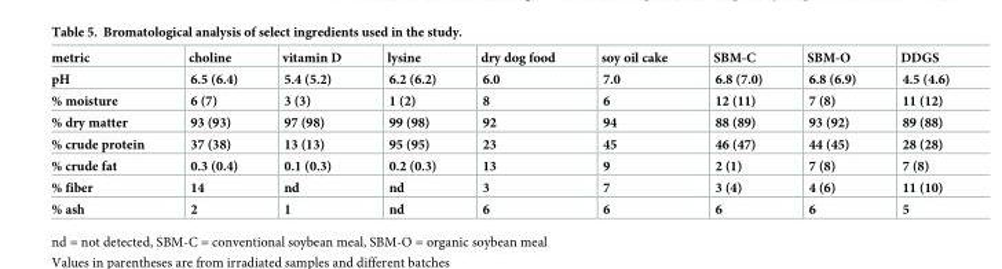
<table><thead><tr><td>metric</td><td>choline</td><td>vitamin D</td><td>lysine</td><td>dry dog food</td><td>soy oil cake</td><td>SBM-C</td><td>SBM-O</td><td>DDGS</td></tr></thead><tbody><tr><td>pH</td><td>6.5 (6.4)</td><td>5.4 (5.2)</td><td>6.2 (6.2)</td><td>6.0</td><td>7.0</td><td>6.8 (7.0)</td><td>6.8 (6.9)</td><td>4.5 (4.6)</td></tr><tr><td>% moisture</td><td>6 (7)</td><td>3 (3)</td><td>1 (2)</td><td>8</td><td>6</td><td>12 (11)</td><td>7 (8)</td><td>11 (12)</td></tr><tr><td>% dry matter</td><td>93 (93)</td><td>97 (98)</td><td>99 (98)</td><td>92</td><td>94</td><td>88 (89)</td><td>93 (92)</td><td>89 (88)</td></tr><tr><td>% crude protein</td><td>37 (38)</td><td>13 (13)</td><td>95 (95)</td><td>23</td><td>45</td><td>46 (47)</td><td>44 (45)</td><td>28 (28)</td></tr><tr><td>% crude fat</td><td>0.3 (0.4)</td><td>0.1 (0.3)</td><td>0.2 (0.3)</td><td>13</td><td>9</td><td>2 (1)</td><td>7 (8)</td><td>7 (8)</td></tr><tr><td>% fiber</td><td>14</td><td>nd</td><td>nd</td><td>3</td><td>7</td><td>3 (4)</td><td>4 (6)</td><td>11 (10)</td></tr><tr><td>% ash</td><td>2</td><td>1</td><td>nd</td><td>6</td><td>6</td><td>6</td><td>6</td><td>5</td></tr></tbody></table>